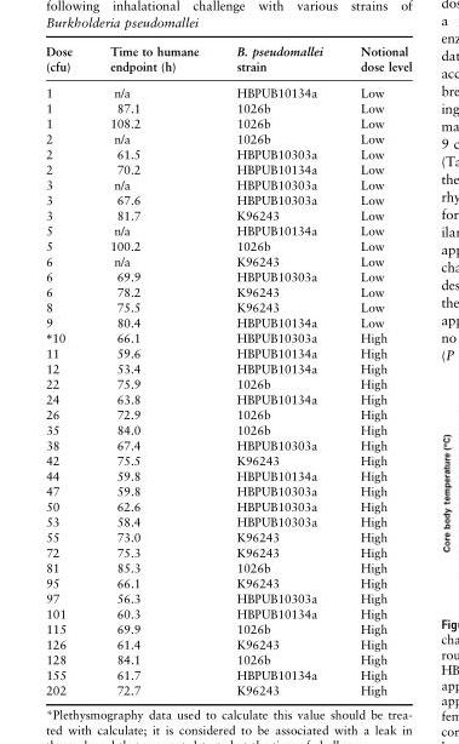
<table><thead><tr><td>Dose (cfu)</td><td>Time to humane endpoint (h)</td><td>B. pseudomallei strain</td><td>Notional dose level</td></tr></thead><tbody><tr><td>1</td><td>n/a</td><td>HBPUB10134a</td><td>Low</td></tr><tr><td>1</td><td>87.1</td><td>1026b</td><td>Low</td></tr><tr><td>1</td><td>108.2</td><td>1026b</td><td>Low</td></tr><tr><td>2</td><td>n/a</td><td>1026b</td><td>Low</td></tr><tr><td>2</td><td>61.5</td><td>HBPUB10303a</td><td>Low</td></tr><tr><td>2</td><td>70.2</td><td>HBPUB10134a</td><td>Low</td></tr><tr><td>3</td><td>n/a</td><td>HBPUB10303a</td><td>Low</td></tr><tr><td>3</td><td>67.6</td><td>HBPUB10303a</td><td>Low</td></tr><tr><td>3</td><td>81.7</td><td>K96243</td><td>Low</td></tr><tr><td>5</td><td>n/a</td><td>HBPUB10134a</td><td>Low</td></tr><tr><td>5</td><td>100.2</td><td>1026b</td><td>Low</td></tr><tr><td>6</td><td>n/a</td><td>K96243</td><td>Low</td></tr><tr><td>6</td><td>69.9</td><td>HBPUB10303a</td><td>Low</td></tr><tr><td>6</td><td>78.2</td><td>K96243</td><td>Low</td></tr><tr><td>8</td><td>75.5</td><td>K96243</td><td>Low</td></tr><tr><td>9</td><td>80.4</td><td>HBPUB10134a</td><td>Low</td></tr><tr><td>*10</td><td>66.1</td><td>HBPUB10303a</td><td>High</td></tr><tr><td>11</td><td>59.6</td><td>HBPUB10134a</td><td>High</td></tr><tr><td>12</td><td>53.4</td><td>HBPUB10134a</td><td>High</td></tr><tr><td>22</td><td>75.9</td><td>1026b</td><td>High</td></tr><tr><td>24</td><td>63.8</td><td>HBPUB10134a</td><td>High</td></tr><tr><td>26</td><td>72.9</td><td>1026b</td><td>High</td></tr><tr><td>35</td><td>84.0</td><td>1026b</td><td>High</td></tr><tr><td>38</td><td>67.4</td><td>HBPUB10303a</td><td>High</td></tr><tr><td>42</td><td>75.5</td><td>K96243</td><td>High</td></tr><tr><td>44</td><td>59.8</td><td>HBPUB10134a</td><td>High</td></tr><tr><td>47</td><td>59.8</td><td>HBPUB10303a</td><td>High</td></tr><tr><td>50</td><td>62.6</td><td>HBPUB10303a</td><td>High</td></tr><tr><td>53</td><td>58.4</td><td>HBPUB10303a</td><td>High</td></tr><tr><td>55</td><td>73.0</td><td>K96243</td><td>High</td></tr><tr><td>72</td><td>75.3</td><td>K96243</td><td>High</td></tr><tr><td>81</td><td>85.3</td><td>1026b</td><td>High</td></tr><tr><td>95</td><td>66.1</td><td>K96243</td><td>High</td></tr><tr><td>97</td><td>56.3</td><td>HBPUB10303a</td><td>High</td></tr><tr><td>101</td><td>60.3</td><td>HBPUB10134a</td><td>High</td></tr><tr><td>115</td><td>69.9</td><td>1026b</td><td>High</td></tr><tr><td>126</td><td>61.4</td><td>K96243</td><td>High</td></tr><tr><td>128</td><td>84.1</td><td>1026b</td><td>High</td></tr><tr><td>155</td><td>61.7</td><td>HBPUB10134a</td><td>High</td></tr><tr><td>202</td><td>72.7</td><td>K96243</td><td>High</td></tr></tbody></table>